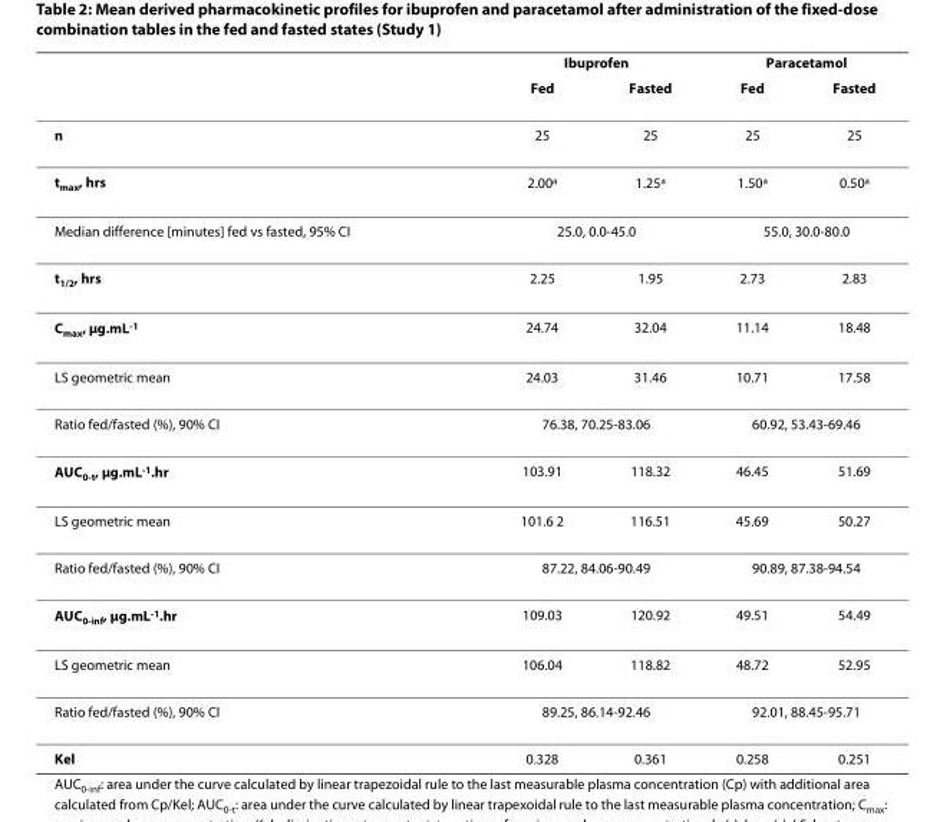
<table><thead><tr><td rowspan="2"></td><td colspan="2">Ibuprofen</td><td colspan="2">Paracetamol</td></tr><tr><td>Fed</td><td>Fasted</td><td>Fed</td><td>Fasted</td></tr></thead><tbody><tr><td>n</td><td>25</td><td>25</td><td>25</td><td>25</td></tr><tr><td>t<sub>max</sub>, hrs</td><td>2.00<sup>a</sup></td><td>1.25<sup>a</sup></td><td>1.50<sup>a</sup></td><td>0.50<sup>a</sup></td></tr><tr><td>Median difference [minutes] fed vs fasted, 95% CI</td><td colspan="2">25.0, 0.0-45.0</td><td colspan="2">55.0, 30.0-80.0</td></tr><tr><td>t<sub>1/2</sub>, hrs</td><td>2.25</td><td>1.95</td><td>2.73</td><td>2.83</td></tr><tr><td>C<sub>max</sub>, μg.mL<sup>-1</sup></td><td>24.74</td><td>32.04</td><td>11.14</td><td>18.48</td></tr><tr><td>LS geometric mean</td><td>24.03</td><td>31.46</td><td>10.71</td><td>17.58</td></tr><tr><td>Ratio fed/fasted (%), 90% CI</td><td colspan="2">76.38, 70.25-83.06</td><td colspan="2">60.92, 53.43-69.46</td></tr><tr><td>AUC<sub>0-t</sub>, μg.mL<sup>-1</sup>.hr</td><td>103.91</td><td>118.32</td><td>46.45</td><td>51.69</td></tr><tr><td>LS geometric mean</td><td>101.6 2</td><td>116.51</td><td>45.69</td><td>50.27</td></tr><tr><td>Ratio fed/fasted (%), 90% CI</td><td colspan="2">87.22, 84.06-90.49</td><td colspan="2">90.89, 87.38-94.54</td></tr><tr><td>AUC<sub>0-inf</sub>, μg.mL<sup>-1</sup>.hr</td><td>109.03</td><td>120.92</td><td>49.51</td><td>54.49</td></tr><tr><td>LS geometric mean</td><td>106.04</td><td>118.82</td><td>48.72</td><td>52.95</td></tr><tr><td>Ratio fed/fasted (%), 90% CI</td><td colspan="2">89.25, 86.14-92.46</td><td colspan="2">92.01, 88.45-95.71</td></tr><tr><td>Kel</td><td>0.328</td><td>0.361</td><td>0.258</td><td>0.251</td></tr></tbody></table>